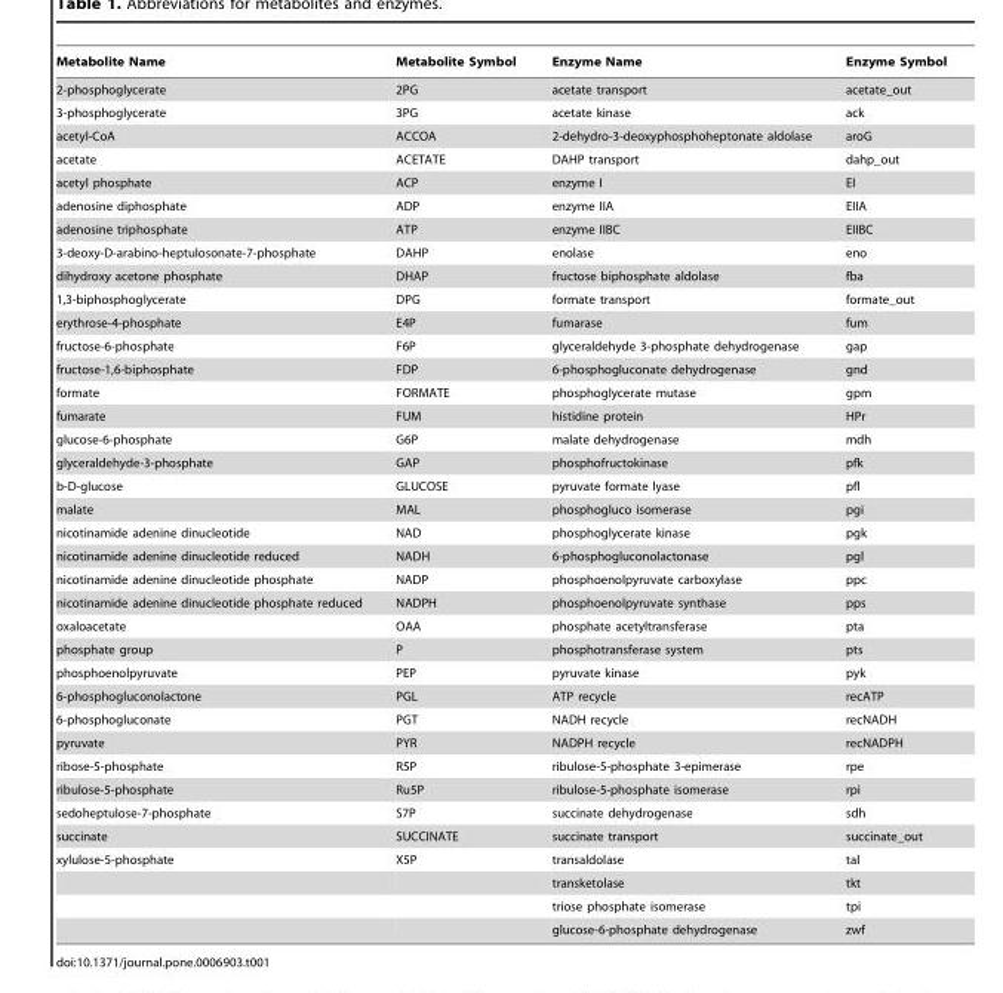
<table><thead><tr><td>Metabolite Name</td><td>Metabolite Symbol</td><td>Enzyme Name</td><td>Enzyme Symbol</td></tr></thead><tbody><tr><td>2-phosphoglycerate</td><td>2PG</td><td>acetate transport</td><td>acetate_out</td></tr><tr><td>3-phosphoglycerate</td><td>3PG</td><td>acetate kinase</td><td>ack</td></tr><tr><td>acetyl-CoA</td><td>ACCOA</td><td>2-dehydro-3-deoxyphosphoheptonate aldolase</td><td>aroG</td></tr><tr><td>acetate</td><td>ACETATE</td><td>DAHP transport</td><td>dahp_out</td></tr><tr><td>acetyl phosphate</td><td>ACP</td><td>enzyme I</td><td>EI</td></tr><tr><td>adenosine diphosphate</td><td>ADP</td><td>enzyme IIA</td><td>EIIA</td></tr><tr><td>adenosine triphosphate</td><td>ATP</td><td>enzyme IIBC</td><td>EIIBC</td></tr><tr><td>3-deoxy-D-arabino-heptulosonate-7-phosphate</td><td>DAHP</td><td>enolase</td><td>eno</td></tr><tr><td>dihydroxy acetone phosphate</td><td>DHAP</td><td>fructose biphosphate aldolase</td><td>fba</td></tr><tr><td>1,3-biphosphoglycerate</td><td>DPG</td><td>formate transport</td><td>formate_out</td></tr><tr><td>erythrose-4-phosphate</td><td>E4P</td><td>fumarase</td><td>fum</td></tr><tr><td>fructose-6-phosphate</td><td>F6P</td><td>glyceraldehyde 3-phosphate dehydrogenase</td><td>gap</td></tr><tr><td>fructose-1,6-biphosphate</td><td>FDP</td><td>6-phosphogluconate dehydrogenase</td><td>gnd</td></tr><tr><td>formate</td><td>FORMATE</td><td>phosphoglycerate mutase</td><td>gpm</td></tr><tr><td>fumarate</td><td>FUM</td><td>histidine protein</td><td>HPr</td></tr><tr><td>glucose-6-phosphate</td><td>G6P</td><td>malate dehydrogenase</td><td>mdh</td></tr><tr><td>glyceraldehyde-3-phosphate</td><td>GAP</td><td>phosphofructokinase</td><td>pfk</td></tr><tr><td>b-D-glucose</td><td>GLUCOSE</td><td>pyruvate formate lyase</td><td>pfl</td></tr><tr><td>malate</td><td>MAL</td><td>phosphogluco isomerase</td><td>pgi</td></tr><tr><td>nicotinamide adenine dinucleotide</td><td>NAD</td><td>phosphoglycerate kinase</td><td>pgk</td></tr><tr><td>nicotinamide adenine dinucleotide reduced</td><td>NADH</td><td>6-phosphogluconolactonase</td><td>pgl</td></tr><tr><td>nicotinamide adenine dinucleotide phosphate</td><td>NADP</td><td>phosphoenolpyruvate carboxylase</td><td>ppc</td></tr><tr><td>nicotinamide adenine dinucleotide phosphate reduced</td><td>NADPH</td><td>phosphoenolpyruvate synthase</td><td>pps</td></tr><tr><td>oxaloacetate</td><td>OAA</td><td>phosphate acetyltransferase</td><td>pta</td></tr><tr><td>phosphate group</td><td>P</td><td>phosphotransferase system</td><td>pts</td></tr><tr><td>phosphoenolpyruvate</td><td>PEP</td><td>pyruvate kinase</td><td>pyk</td></tr><tr><td>6-phosphogluconolactone</td><td>PGL</td><td>ATP recycle</td><td>recATP</td></tr><tr><td>6-phosphogluconate</td><td>PGT</td><td>NADH recycle</td><td>recNADH</td></tr><tr><td>pyruvate</td><td>PYR</td><td>NADPH recycle</td><td>recNADPH</td></tr><tr><td>ribose-5-phosphate</td><td>R5P</td><td>ribulose-5-phosphate 3-epimerase</td><td>rpe</td></tr><tr><td>ribulose-5-phosphate</td><td>Ru5P</td><td>ribulose-5-phosphate isomerase</td><td>rpi</td></tr><tr><td>sedoheptulose-7-phosphate</td><td>S7P</td><td>succinate dehydrogenase</td><td>sdh</td></tr><tr><td>succinate</td><td>SUCCINATE</td><td>succinate transport</td><td>succinate_out</td></tr><tr><td rowspan="4">xylulose-5-phosphate</td><td>X5P</td><td>transaldolase</td><td>tal</td></tr><tr><td></td><td>transketolase</td><td>tkt</td></tr><tr><td></td><td>triose phosphate isomerase</td><td>tpi</td></tr><tr><td></td><td>glucose-6-phosphate dehydrogenase</td><td>zwf</td></tr></tbody></table>